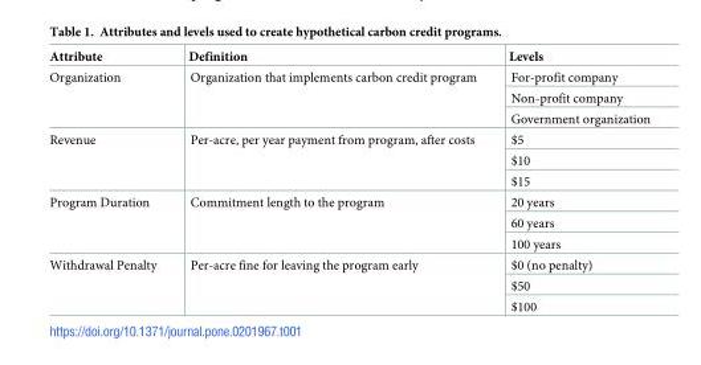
<table><thead><tr><td>Attribute</td><td>Definition</td><td>Levels</td></tr></thead><tbody><tr><td rowspan="3">Organization</td><td rowspan="3">Organization that implements carbon credit program</td><td>For-profit company</td></tr><tr><td>Non-profit company</td></tr><tr><td>Government organization</td></tr><tr><td rowspan="3">Revenue</td><td rowspan="3">Per-acre, per year payment from program, after costs</td><td>$5</td></tr><tr><td>$10</td></tr><tr><td>$15</td></tr><tr><td rowspan="3">Program Duration</td><td rowspan="3">Commitment length to the program</td><td>20 years</td></tr><tr><td>60 years</td></tr><tr><td>100 years</td></tr><tr><td rowspan="3">Withdrawal Penalty</td><td rowspan="3">Per-acre fine for leaving the program early</td><td>$0 (no penalty)</td></tr><tr><td>$50</td></tr><tr><td>$100</td></tr></tbody></table>